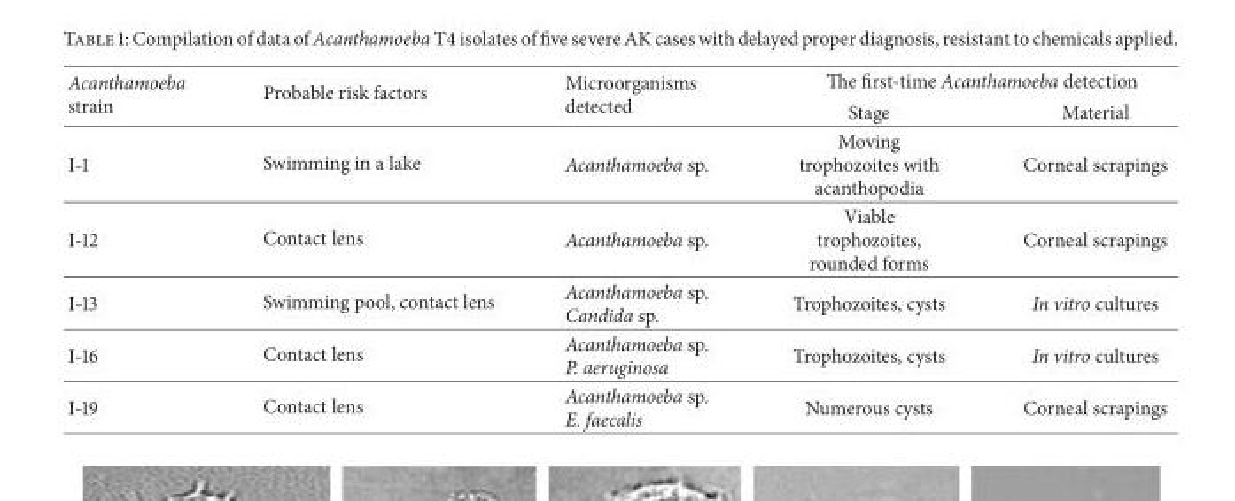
<table><thead><tr><td rowspan="2">Acanthamoeba strain</td><td rowspan="2">Probable risk factors</td><td rowspan="2">Microorganisms detected</td><td colspan="2">The first-time Acanthamoeba detection</td></tr><tr><td>Stage</td><td>Material</td></tr></thead><tbody><tr><td>I-1</td><td>Swimming in a lake</td><td>Acanthamoeba sp.</td><td>Moving trophozoites with acanthopodia</td><td>Corneal scrapings</td></tr><tr><td>I-12</td><td>Contact lens</td><td>Acanthamoeba sp.</td><td>Viable trophozoites, rounded forms</td><td>Corneal scrapings</td></tr><tr><td>I-13</td><td>Swimming pool, contact lens</td><td>Acanthamoeba sp. Candida sp.</td><td>Trophozoites, cysts</td><td>In vitro cultures</td></tr><tr><td>I-16</td><td>Contact lens</td><td>Acanthamoeba sp. P. aeruginosa</td><td>Trophozoites, cysts</td><td>In vitro cultures</td></tr><tr><td>I-19</td><td>Contact lens</td><td>Acanthamoeba sp. E. faecalis</td><td>Numerous cysts</td><td>Corneal scrapings</td></tr></tbody></table>